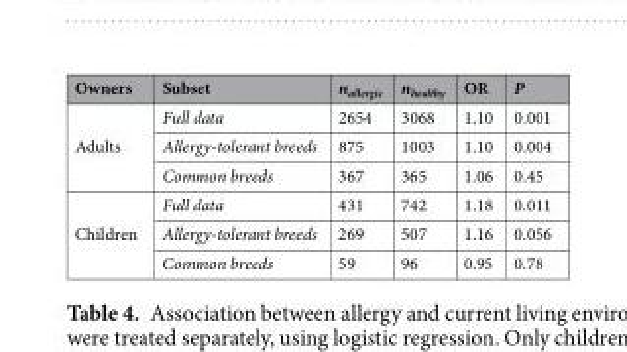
<table><thead><tr><td>Owners</td><td>Subset</td><td>n<sub>allergic</sub></td><td>n<sub>healthy</sub></td><td>OR</td><td>P</td></tr></thead><tbody><tr><td rowspan="3">Adults</td><td>Full data</td><td>2654</td><td>3068</td><td>1.10</td><td>0.001</td></tr><tr><td>Allergy-tolerant breeds</td><td>875</td><td>1003</td><td>1.10</td><td>0.004</td></tr><tr><td>Common breeds</td><td>367</td><td>365</td><td>1.06</td><td>0.45</td></tr><tr><td rowspan="3">Children</td><td>Full data</td><td>431</td><td>742</td><td>1.18</td><td>0.011</td></tr><tr><td>Allergy-tolerant breeds</td><td>269</td><td>507</td><td>1.16</td><td>0.056</td></tr><tr><td>Common breeds</td><td>59</td><td>96</td><td>0.95</td><td>0.78</td></tr></tbody></table>